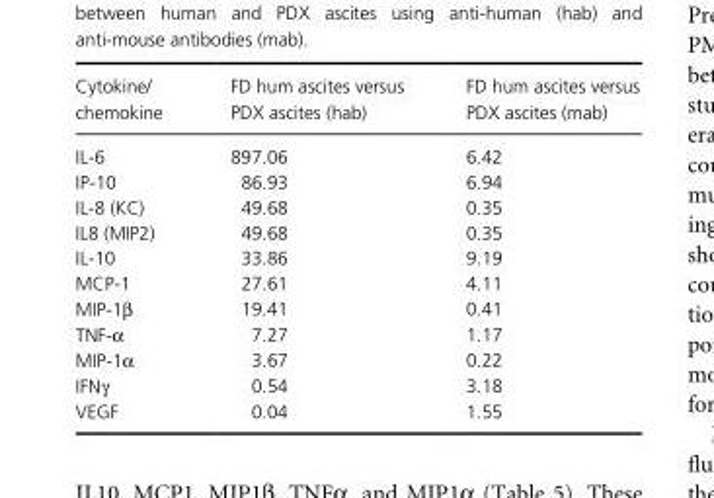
<table><thead><tr><td>Cytokine/ chemokine</td><td>FD hum ascites versus PDX ascites (hab)</td><td>FD hum ascites versus PDX ascites (mab)</td></tr></thead><tbody><tr><td>IL- 6</td><td>897.06</td><td>6.42</td></tr><tr><td>IP- 10</td><td>86.93</td><td>6.94</td></tr><tr><td>IL- 8 (KC)</td><td>49.68</td><td>0.35</td></tr><tr><td>IL8 (MIP2)</td><td>49.68</td><td>0.35</td></tr><tr><td>IL- 10</td><td>33.86</td><td>9.19</td></tr><tr><td>MCP- 1</td><td>27.61</td><td>4.11</td></tr><tr><td>MIP- 1β</td><td>19.41</td><td>0.41</td></tr><tr><td>TNF- α</td><td>7.27</td><td>1.17</td></tr><tr><td>MIP- 1α</td><td>3.67</td><td>0.22</td></tr><tr><td>IFNγ</td><td>0.54</td><td>3.18</td></tr><tr><td>VEGF</td><td>0.04</td><td>1.55</td></tr></tbody></table>